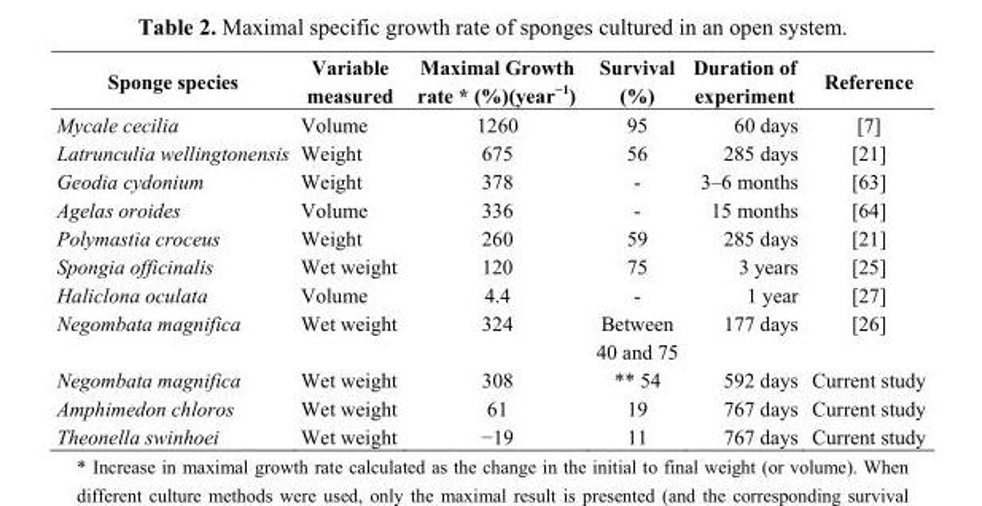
<table><thead><tr><td>Sponge species</td><td>Variable measured</td><td>Maximal Growth rate * (%)(year<sup>−1</sup>)</td><td>Survival (%)</td><td>Duration of experiment</td><td>Reference</td></tr></thead><tbody><tr><td>Mycale cecilia</td><td>Volume</td><td>1260</td><td>95</td><td>60 days</td><td>[7]</td></tr><tr><td>Latrunculia wellingtonensis</td><td>Weight</td><td>675</td><td>56</td><td>285 days</td><td>[21]</td></tr><tr><td>Geodia cydonium</td><td>Weight</td><td>378</td><td>-</td><td>3–6 months</td><td>[63]</td></tr><tr><td>Agelas oroides</td><td>Volume</td><td>336</td><td>-</td><td>15 months</td><td>[64]</td></tr><tr><td>Polymastia croceus</td><td>Weight</td><td>260</td><td>59</td><td>285 days</td><td>[21]</td></tr><tr><td>Spongia officinalis</td><td>Wet weight</td><td>120</td><td>75</td><td>3 years</td><td>[25]</td></tr><tr><td>Haliclona oculata</td><td>Volume</td><td>4.4</td><td>-</td><td>1 year</td><td>[27]</td></tr><tr><td>Negombata magnifica</td><td>Wet weight</td><td>324</td><td>Between 40 and 75</td><td>177 days</td><td>[26]</td></tr><tr><td>Negombata magnifica</td><td>Wet weight</td><td>308</td><td>** 54</td><td>592 days</td><td>Current study</td></tr><tr><td>Amphimedon chloros</td><td>Wet weight</td><td>61</td><td>19</td><td>767 days</td><td>Current study</td></tr><tr><td>Theonella swinhoei</td><td>Wet weight</td><td>−19</td><td>11</td><td>767 days</td><td>Current study</td></tr></tbody></table>